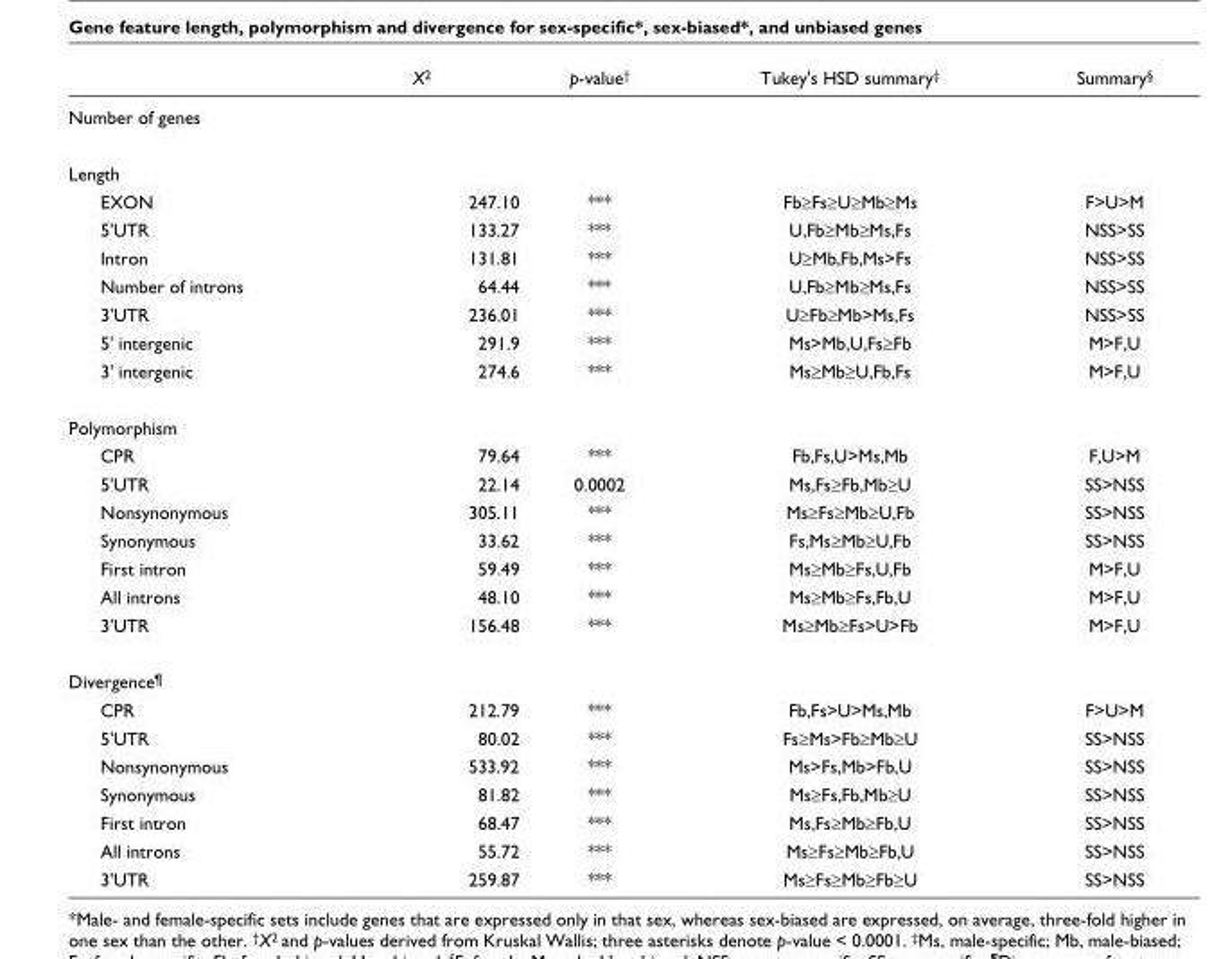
<table><thead><tr><td></td><td>X<sup>2</sup></td><td>p-value<sup>†</sup></td><td>Tukey&#x27;s HSD summary<sup>‡</sup></td><td>Summary<sup>§</sup></td></tr></thead><tbody><tr><td colspan="5">Number of genes</td></tr><tr><td colspan="5">Length</td></tr><tr><td>EXON</td><td>247.10</td><td>***</td><td>Fb≥Fs≥U≥Mb≥Ms</td><td>F&gt;U&gt;M</td></tr><tr><td>5&#x27;UTR</td><td>133.27</td><td>***</td><td>U,Fb≥Mb≥Ms,Fs</td><td>NSS&gt;SS</td></tr><tr><td>Intron</td><td>131.81</td><td>***</td><td>U≥Mb,Fb,Ms&gt;Fs</td><td>NSS&gt;SS</td></tr><tr><td>Number of introns</td><td>64.44</td><td>***</td><td>U,Fb≥Mb≥Ms,Fs</td><td>NSS&gt;SS</td></tr><tr><td>3&#x27;UTR</td><td>236.01</td><td>***</td><td>U≥Fb≥Mb&gt;Ms,Fs</td><td>NSS&gt;SS</td></tr><tr><td>5&#x27; intergenic</td><td>291.9</td><td>***</td><td>Ms&gt;Mb,U,Fs≥Fb</td><td>M&gt;F,U</td></tr><tr><td>3&#x27; intergenic</td><td>274.6</td><td>***</td><td>Ms≥Mb≥U,Fb,Fs</td><td>M&gt;F,U</td></tr><tr><td colspan="5">Polymorphism</td></tr><tr><td>CPR</td><td>79.64</td><td>***</td><td>Fb,Fs,U&gt;Ms,Mb</td><td>F,U&gt;M</td></tr><tr><td>5&#x27;UTR</td><td>22.14</td><td>0.0002</td><td>Ms,Fs≥Fb,Mb≥U</td><td>SS&gt;NSS</td></tr><tr><td>Nonsynonymous</td><td>305.11</td><td>***</td><td>Ms≥Fs≥Mb≥U,Fb</td><td>SS&gt;NSS</td></tr><tr><td>Synonymous</td><td>33.62</td><td>***</td><td>Fs,Ms≥Mb≥U,Fb</td><td>SS&gt;NSS</td></tr><tr><td>First intron</td><td>59.49</td><td>***</td><td>Ms≥Mb≥Fs,U,Fb</td><td>M&gt;F,U</td></tr><tr><td>All introns</td><td>48.10</td><td>***</td><td>Ms≥Mb≥Fs,Fb,U</td><td>M&gt;F,U</td></tr><tr><td>3&#x27;UTR</td><td>156.48</td><td>***</td><td>Ms≥Mb≥Fs&gt;U&gt;Fb</td><td>M&gt;F,U</td></tr><tr><td colspan="5">Divergence<sup>¶</sup></td></tr><tr><td>CPR</td><td>212.79</td><td>***</td><td>Fb,Fs&gt;U&gt;Ms,Mb</td><td>F&gt;U&gt;M</td></tr><tr><td>5&#x27;UTR</td><td>80.02</td><td>***</td><td>Fs≥Ms&gt;Fb≥Mb≥U</td><td>SS&gt;NSS</td></tr><tr><td>Nonsynonymous</td><td>533.92</td><td>***</td><td>Ms&gt;Fs,Mb&gt;Fb,U</td><td>SS&gt;NSS</td></tr><tr><td>Synonymous</td><td>81.82</td><td>***</td><td>Ms≥Fs,Fb,Mb≥U</td><td>SS&gt;NSS</td></tr><tr><td>First intron</td><td>68.47</td><td>***</td><td>Ms,Fs≥Mb≥Fb,U</td><td>SS&gt;NSS</td></tr><tr><td>All introns</td><td>55.72</td><td>***</td><td>Ms≥Fs≥Mb≥Fb,U</td><td>SS&gt;NSS</td></tr><tr><td>3&#x27;UTR</td><td>259.87</td><td>***</td><td>Ms≥Fs≥Mb≥Fb≥U</td><td>SS&gt;NSS</td></tr></tbody></table>